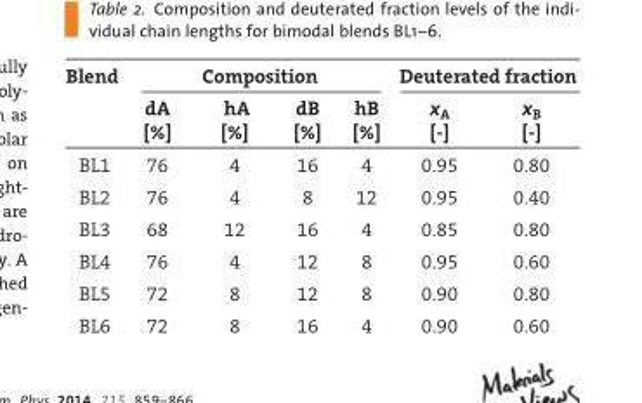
<table><thead><tr><td rowspan="2">Blend</td><td colspan="4">Composition</td><td colspan="2">Deuterated fraction</td></tr><tr><td>dA [%]</td><td>hA [%]</td><td>dB [%]</td><td>hB [%]</td><td>x <sub>A</sub> [-]</td><td>x <sub>B</sub> [-]</td></tr></thead><tbody><tr><td>BL1</td><td>76</td><td>4</td><td>16</td><td>4</td><td>0.95</td><td>0.80</td></tr><tr><td>BL2</td><td>76</td><td>4</td><td>8</td><td>12</td><td>0.95</td><td>0.40</td></tr><tr><td>BL3</td><td>68</td><td>12</td><td>16</td><td>4</td><td>0.85</td><td>0.80</td></tr><tr><td>BL4</td><td>76</td><td>4</td><td>12</td><td>8</td><td>0.95</td><td>0.60</td></tr><tr><td>BL5</td><td>72</td><td>8</td><td>12</td><td>8</td><td>0.90</td><td>0.80</td></tr><tr><td>BL6</td><td>72</td><td>8</td><td>16</td><td>4</td><td>0.90</td><td>0.60</td></tr></tbody></table>